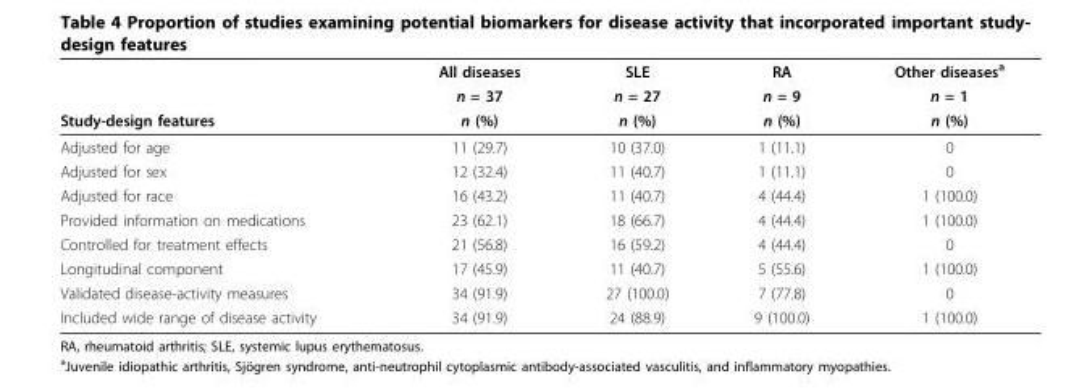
<table><thead><tr><td rowspan="3">Study-design features</td><td rowspan="3">All diseases n = 37 n (%)</td><td rowspan="3">SLE n = 27 n (%)</td><td rowspan="3">RA n = 9 n (%)</td><td rowspan="3">Other diseases<sup>a</sup> n = 1 n (%)</td></tr><tr></tr><tr></tr></thead><tbody><tr><td>Adjusted for age</td><td>11 (29.7)</td><td>10 (37.0)</td><td>1 (11.1)</td><td>0</td></tr><tr><td>Adjusted for sex</td><td>12 (32.4)</td><td>11 (40.7)</td><td>1 (11.1)</td><td>0</td></tr><tr><td>Adjusted for race</td><td>16 (43.2)</td><td>11 (40.7)</td><td>4 (44.4)</td><td>1 (100.0)</td></tr><tr><td>Provided information on medications</td><td>23 (62.1)</td><td>18 (66.7)</td><td>4 (44.4)</td><td>1 (100.0)</td></tr><tr><td>Controlled for treatment effects</td><td>21 (56.8)</td><td>16 (59.2)</td><td>4 (44.4)</td><td>0</td></tr><tr><td>Longitudinal component</td><td>17 (45.9)</td><td>11 (40.7)</td><td>5 (55.6)</td><td>1 (100.0)</td></tr><tr><td>Validated disease-activity measures</td><td>34 (91.9)</td><td>27 (100.0)</td><td>7 (77.8)</td><td>0</td></tr><tr><td>Included wide range of disease activity</td><td>34 (91.9)</td><td>24 (88.9)</td><td>9 (100.0)</td><td>1 (100.0)</td></tr></tbody></table>